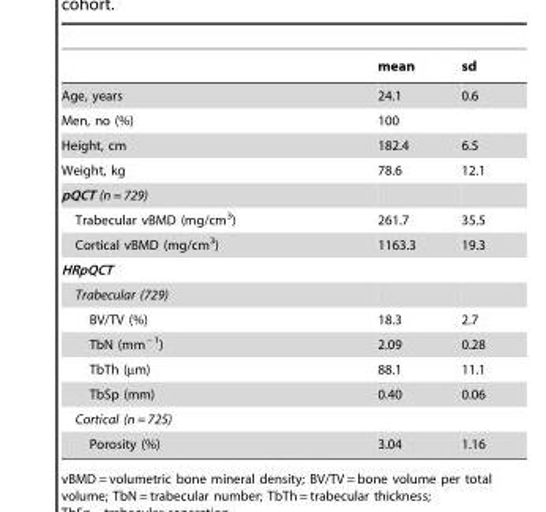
<table><thead><tr><td></td><td>mean</td><td>sd</td></tr></thead><tbody><tr><td>Age, years</td><td>24.1</td><td>0.6</td></tr><tr><td>Men, no (%)</td><td>100</td><td></td></tr><tr><td>Height, cm</td><td>182.4</td><td>6.5</td></tr><tr><td>Weight, kg</td><td>78.6</td><td>12.1</td></tr><tr><td colspan="3">pQCT (n = 729)</td></tr><tr><td>Trabecular vBMD (mg/cm<sup>3</sup>)</td><td>261.7</td><td>35.5</td></tr><tr><td>Cortical vBMD (mg/cm<sup>3</sup>)</td><td>1163.3</td><td>19.3</td></tr><tr><td colspan="3">HRpQCT</td></tr><tr><td colspan="3">Trabecular (729)</td></tr><tr><td>BV/TV (%)</td><td>18.3</td><td>2.7</td></tr><tr><td>TbN (mm<sup>−1</sup>)</td><td>2.09</td><td>0.28</td></tr><tr><td>TbTh (µm)</td><td>88.1</td><td>11.1</td></tr><tr><td>TbSp (mm)</td><td>0.40</td><td>0.06</td></tr><tr><td colspan="3">Cortical (n = 725)</td></tr><tr><td>Porosity (%)</td><td>3.04</td><td>1.16</td></tr></tbody></table>